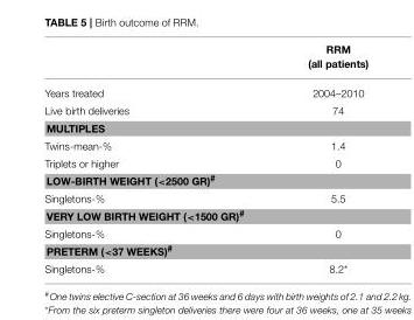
<table><thead><tr><td></td><td>RRM (all patients)</td></tr></thead><tbody><tr><td>Years treated</td><td>2004–2010</td></tr><tr><td>Live birth deliveries</td><td>74</td></tr><tr><td colspan="2">MULTIPLES</td></tr><tr><td>Twins-mean-%</td><td>1.4</td></tr><tr><td>Triplets or higher</td><td>0</td></tr><tr><td colspan="2">LOW-BIRTH WEIGHT (&lt;2500 GR)<sup>#</sup></td></tr><tr><td>Singletons-%</td><td>5.5</td></tr><tr><td colspan="2">VERY LOW BIRTH WEIGHT (&lt;1500 GR)<sup>#</sup></td></tr><tr><td>Singletons-%</td><td>0</td></tr><tr><td colspan="2">PRETERM (&lt;37 WEEKS)<sup>#</sup></td></tr><tr><td>Singletons-%</td><td>8.2*</td></tr></tbody></table>